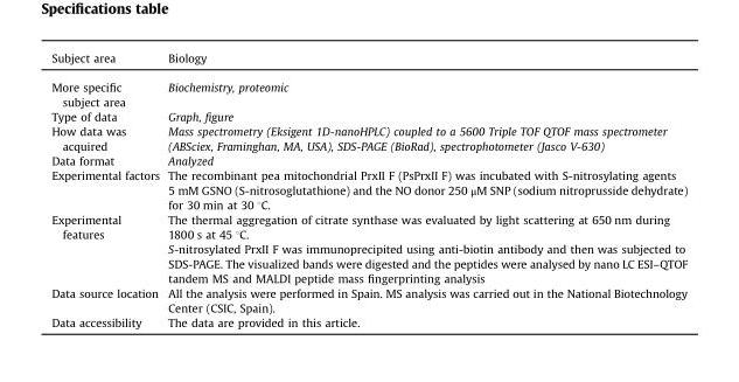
<table><thead><tr><td>Subject area</td><td>Biology</td></tr></thead><tbody><tr><td>More specific subject area</td><td>Biochemistry, proteomic</td></tr><tr><td>Type of data</td><td>Graph, figure</td></tr><tr><td>How data was acquired</td><td>Mass spectrometry (Eksigent 1D-nanoHPLC) coupled to a 5600 Triple TOF QTOF mass spectrometer (ABSciex, Framinghan, MA, USA), SDS-PAGE (BioRad), spectrophotometer (Jasco V-630)</td></tr><tr><td>Data format</td><td>Analyzed</td></tr><tr><td>Experimental factors</td><td>The recombinant pea mitochondrial PrxII F (PsPrxII F) was incubated with S-nitrosylating agents 5 mM GSNO (S-nitrosoglutathione) and the NO donor 250 μM SNP (sodium nitroprusside dehydrate) for 30 min at 30 °C.</td></tr><tr><td rowspan="2">Experimental features</td><td>The thermal aggregation of citrate synthase was evaluated by light scattering at 650 nm during 1800 s at 45 °C.</td></tr><tr><td>S-nitrosylated PrxII F was immunoprecipited using anti-biotin antibody and then was subjected to SDS-PAGE. The visualized bands were digested and the peptides were analysed by nano LC ESI–QTOF tandem MS and MALDI peptide mass fingerprinting analysis</td></tr><tr><td>Data source location</td><td>All the analysis were performed in Spain. MS analysis was carried out in the National Biotechnology Center (CSIC, Spain).</td></tr><tr><td>Data accessibility</td><td>The data are provided in this article.</td></tr></tbody></table>